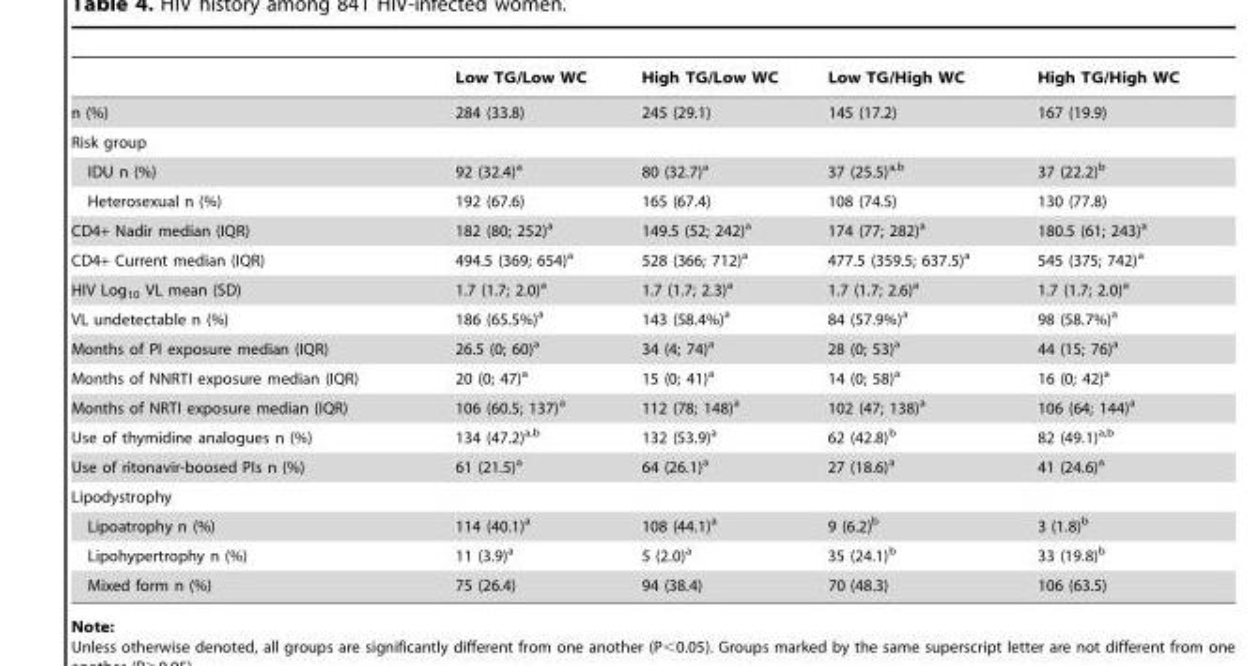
<table><thead><tr><td></td><td>Low TG/Low WC</td><td>High TG/Low WC</td><td>Low TG/High WC</td><td>High TG/High WC</td></tr></thead><tbody><tr><td>n (%)</td><td>284 (33.8)</td><td>245 (29.1)</td><td>145 (17.2)</td><td>167 (19.9)</td></tr><tr><td colspan="5">Risk group</td></tr><tr><td>IDU n (%)</td><td>92 (32.4)<sup>a</sup></td><td>80 (32.7)<sup>a</sup></td><td>37 (25.5)<sup>a,b</sup></td><td>37 (22.2)<sup>b</sup></td></tr><tr><td>Heterosexual n (%)</td><td>192 (67.6)</td><td>165 (67.4)</td><td>108 (74.5)</td><td>130 (77.8)</td></tr><tr><td>CD4+ Nadir median (IQR)</td><td>182 (80; 252)<sup>a</sup></td><td>149.5 (52; 242)<sup>a</sup></td><td>174 (77; 282)<sup>a</sup></td><td>180.5 (61; 243)<sup>a</sup></td></tr><tr><td>CD4+ Current median (IQR)</td><td>494.5 (369; 654)<sup>a</sup></td><td>528 (366; 712)<sup>a</sup></td><td>477.5 (359.5; 637.5)<sup>a</sup></td><td>545 (375; 742)<sup>a</sup></td></tr><tr><td>HIV Log<sub>10</sub> VL mean (SD)</td><td>1.7 (1.7; 2.0)<sup>a</sup></td><td>1.7 (1.7; 2.3)<sup>a</sup></td><td>1.7 (1.7; 2.6)<sup>a</sup></td><td>1.7 (1.7; 2.0)<sup>a</sup></td></tr><tr><td>VL undetectable n (%)</td><td>186 (65.5%)<sup>a</sup></td><td>143 (58.4%)<sup>a</sup></td><td>84 (57.9%)<sup>a</sup></td><td>98 (58.7%)<sup>a</sup></td></tr><tr><td>Months of PI exposure median (IQR)</td><td>26.5 (0; 60)<sup>a</sup></td><td>34 (4; 74)<sup>a</sup></td><td>28 (0; 53)<sup>a</sup></td><td>44 (15; 76)<sup>a</sup></td></tr><tr><td>Months of NNRTI exposure median (IQR)</td><td>20 (0; 47)<sup>a</sup></td><td>15 (0; 41)<sup>a</sup></td><td>14 (0; 58)<sup>a</sup></td><td>16 (0; 42)<sup>a</sup></td></tr><tr><td>Months of NRTI exposure median (IQR)</td><td>106 (60.5; 137)<sup>a</sup></td><td>112 (78; 148)<sup>a</sup></td><td>102 (47; 138)<sup>a</sup></td><td>106 (64; 144)<sup>a</sup></td></tr><tr><td>Use of thymidine analogues n (%)</td><td>134 (47.2)<sup>a,b</sup></td><td>132 (53.9)<sup>a</sup></td><td>62 (42.8)<sup>b</sup></td><td>82 (49.1)<sup>a,b</sup></td></tr><tr><td>Use of ritonavir-boosed PIs n (%)</td><td>61 (21.5)<sup>a</sup></td><td>64 (26.1)<sup>a</sup></td><td>27 (18.6)<sup>a</sup></td><td>41 (24.6)<sup>a</sup></td></tr><tr><td colspan="5">Lipodystrophy</td></tr><tr><td>Lipoatrophy n (%)</td><td>114 (40.1)<sup>a</sup></td><td>108 (44.1)<sup>a</sup></td><td>9 (6.2)<sup>b</sup></td><td>3 (1.8)<sup>b</sup></td></tr><tr><td>Lipohypertrophy n (%)</td><td>11 (3.9)<sup>a</sup></td><td>5 (2.0)<sup>a</sup></td><td>35 (24.1)<sup>b</sup></td><td>33 (19.8)<sup>b</sup></td></tr><tr><td>Mixed form n (%)</td><td>75 (26.4)</td><td>94 (38.4)</td><td>70 (48.3)</td><td>106 (63.5)</td></tr></tbody></table>